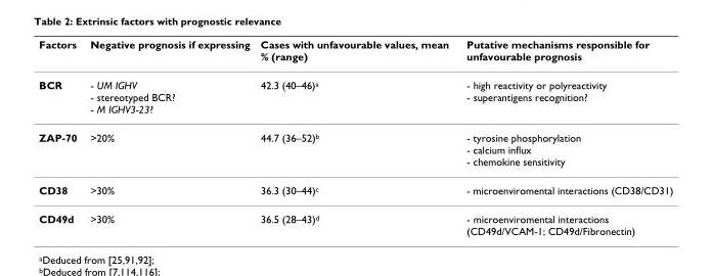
<table><thead><tr><td>Factors</td><td>Negative prognosis if expressing</td><td>Cases with unfavourable values, mean % (range)</td><td>Putative mechanisms responsible for unfavourable prognosis</td></tr></thead><tbody><tr><td>BCR</td><td>- UM IGHV - stereotyped BCR? - M IGHV3-23?</td><td>42.3 (40–46)<sup>a</sup></td><td>- high reactivity or polyreactivity - superantigens recognition?</td></tr><tr><td>ZAP-70</td><td>&gt;20%</td><td>44.7 (36–52)<sup>b</sup></td><td>- tyrosine phosphorylation - calcium influx - chemokine sensitivity</td></tr><tr><td>CD38</td><td>&gt;30%</td><td>36.3 (30–44)<sup>c</sup></td><td>- microenviromental interactions (CD38/CD31)</td></tr><tr><td>CD49d</td><td>&gt;30%</td><td>36.5 (28–43)<sup>d</sup></td><td>- microenviromental interactions (CD49d/VCAM-1; CD49d/Fibronectin)</td></tr></tbody></table>